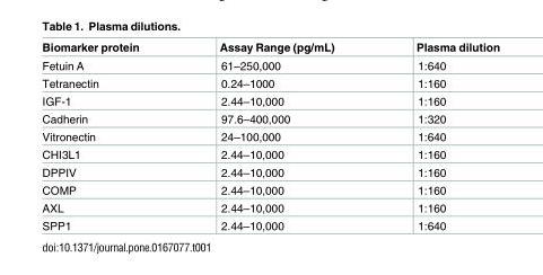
<table><thead><tr><td>Biomarker protein</td><td>Assay Range (pg/mL)</td><td>Plasma dilution</td></tr></thead><tbody><tr><td>Fetuin A</td><td>61–250,000</td><td>1:640</td></tr><tr><td>Tetranectin</td><td>0.24–1000</td><td>1:160</td></tr><tr><td>IGF-1</td><td>2.44–10,000</td><td>1:160</td></tr><tr><td>Cadherin</td><td>97.6–400,000</td><td>1:320</td></tr><tr><td>Vitronectin</td><td>24–100,000</td><td>1:640</td></tr><tr><td>CHI3L1</td><td>2.44–10,000</td><td>1:160</td></tr><tr><td>DPPIV</td><td>2.44–10,000</td><td>1:160</td></tr><tr><td>COMP</td><td>2.44–10,000</td><td>1:160</td></tr><tr><td>AXL</td><td>2.44–10,000</td><td>1:160</td></tr><tr><td>SPP1</td><td>2.44–10,000</td><td>1:640</td></tr></tbody></table>